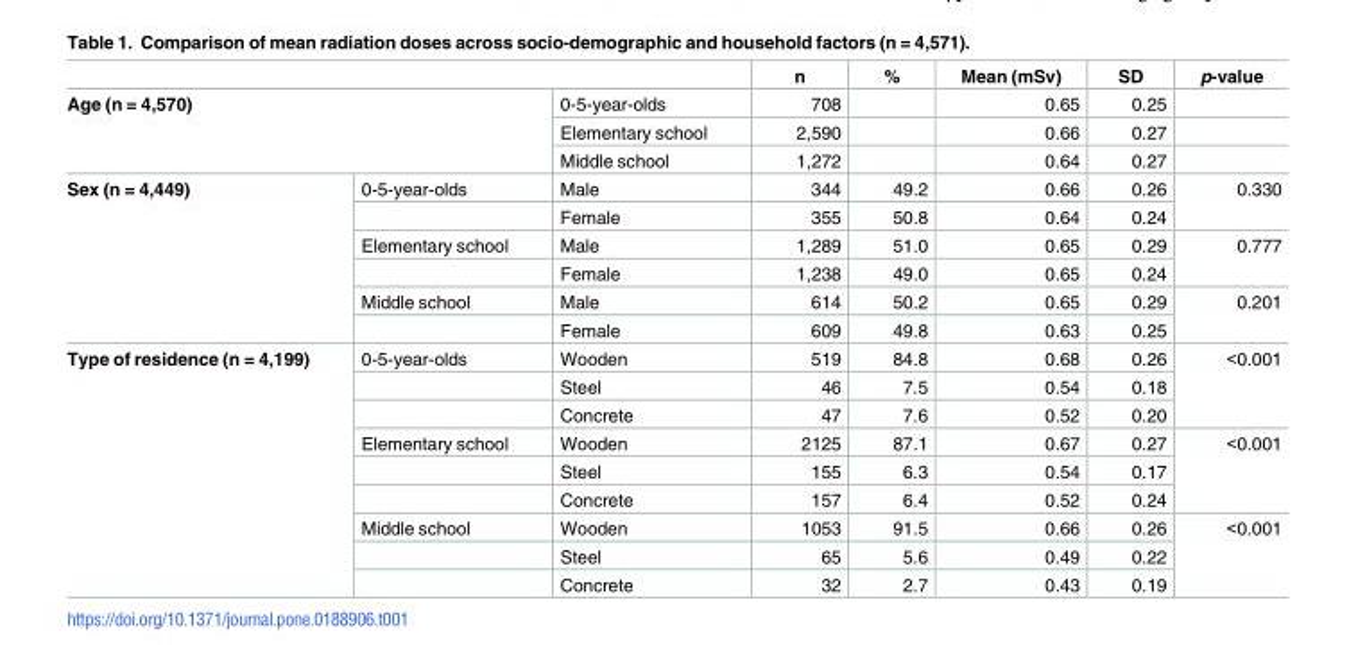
<table><thead><tr><td></td><td></td><td></td><td>n</td><td>%</td><td>Mean (mSv)</td><td>SD</td><td>p-value</td></tr></thead><tbody><tr><td rowspan="3" colspan="2">Age (n = 4,570)</td><td>0-5-year-olds</td><td>708</td><td></td><td>0.65</td><td>0.25</td><td></td></tr><tr><td>Elementary school</td><td>2,590</td><td></td><td>0.66</td><td>0.27</td><td></td></tr><tr><td>Middle school</td><td>1,272</td><td></td><td>0.64</td><td>0.27</td><td></td></tr><tr><td rowspan="6">Sex (n = 4,449)</td><td>0-5-year-olds</td><td>Male</td><td>344</td><td>49.2</td><td>0.66</td><td>0.26</td><td rowspan="2">0.330</td></tr><tr><td></td><td>Female</td><td>355</td><td>50.8</td><td>0.64</td><td>0.24</td></tr><tr><td>Elementary school</td><td>Male</td><td>1,289</td><td>51.0</td><td>0.65</td><td>0.29</td><td rowspan="2">0.777</td></tr><tr><td></td><td>Female</td><td>1,238</td><td>49.0</td><td>0.65</td><td>0.24</td></tr><tr><td>Middle school</td><td>Male</td><td>614</td><td>50.2</td><td>0.65</td><td>0.29</td><td rowspan="2">0.201</td></tr><tr><td></td><td>Female</td><td>609</td><td>49.8</td><td>0.63</td><td>0.25</td></tr><tr><td rowspan="9">Type of residence (n = 4,199)</td><td>0-5-year-olds</td><td>Wooden</td><td>519</td><td>84.8</td><td>0.68</td><td>0.26</td><td rowspan="3">&lt;0.001</td></tr><tr><td></td><td>Steel</td><td>46</td><td>7.5</td><td>0.54</td><td>0.18</td></tr><tr><td></td><td>Concrete</td><td>47</td><td>7.6</td><td>0.52</td><td>0.20</td></tr><tr><td>Elementary school</td><td>Wooden</td><td>2125</td><td>87.1</td><td>0.67</td><td>0.27</td><td rowspan="3">&lt;0.001</td></tr><tr><td></td><td>Steel</td><td>155</td><td>6.3</td><td>0.54</td><td>0.17</td></tr><tr><td></td><td>Concrete</td><td>157</td><td>6.4</td><td>0.52</td><td>0.24</td></tr><tr><td>Middle school</td><td>Wooden</td><td>1053</td><td>91.5</td><td>0.66</td><td>0.26</td><td rowspan="3">&lt;0.001</td></tr><tr><td></td><td>Steel</td><td>65</td><td>5.6</td><td>0.49</td><td>0.22</td></tr><tr><td></td><td>Concrete</td><td>32</td><td>2.7</td><td>0.43</td><td>0.19</td></tr></tbody></table>